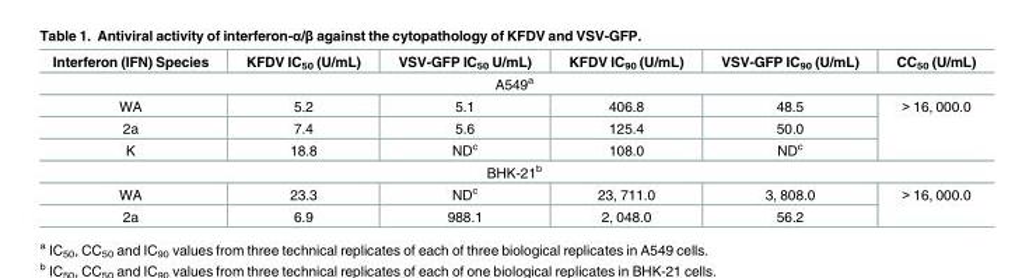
<table><thead><tr><td>Interferon (IFN) Species</td><td>KFDV IC<sub>50</sub> (U/mL)</td><td>VSV-GFP IC<sub>50</sub> U/mL)</td><td>KFDV IC<sub>90</sub> (U/mL)</td><td>VSV-GFP IC<sub>90</sub> (U/mL)</td><td>CC<sub>50</sub> (U/mL)</td></tr></thead><tbody><tr><td colspan="6">A549<sup>a</sup></td></tr><tr><td>WA</td><td>5.2</td><td>5.1</td><td>406.8</td><td>48.5</td><td rowspan="3">&gt; 16, 000.0</td></tr><tr><td>2a</td><td>7.4</td><td>5.6</td><td>125.4</td><td>50.0</td></tr><tr><td>K</td><td>18.8</td><td>ND<sup>c</sup></td><td>108.0</td><td>ND<sup>c</sup></td></tr><tr><td colspan="6">BHK-21<sup>b</sup></td></tr><tr><td>WA</td><td>23.3</td><td>ND<sup>c</sup></td><td>23, 711.0</td><td>3, 808.0</td><td rowspan="2">&gt; 16, 000.0</td></tr><tr><td>2a</td><td>6.9</td><td>988.1</td><td>2, 048.0</td><td>56.2</td></tr></tbody></table>